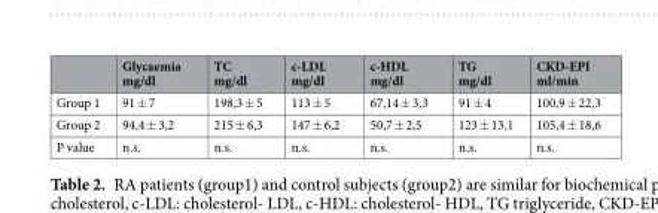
<table><thead><tr><td></td><td>Glycaemia mg/dl</td><td>TC mg/dl</td><td>c-LDL mg/dl</td><td>c-HDL mg/dl</td><td>TG mg/dl</td><td>CKD-EPI ml/min</td></tr></thead><tbody><tr><td>Group 1</td><td>91 ± 7</td><td>198,3 ± 5</td><td>113 ± 5</td><td>67,14 ± 3,3</td><td>91 ± 4</td><td>100,9 ± 22,3</td></tr><tr><td>Group 2</td><td>94,4 ± 3,2</td><td>215 ± 6,3</td><td>147 ± 6,2</td><td>50,7 ± 2,5</td><td>123 ± 13,1</td><td>105,4 ± 18,6</td></tr><tr><td>P value</td><td>n.s.</td><td>n.s.</td><td>n.s.</td><td>n.s.</td><td>n.s.</td><td>n.s.</td></tr></tbody></table>